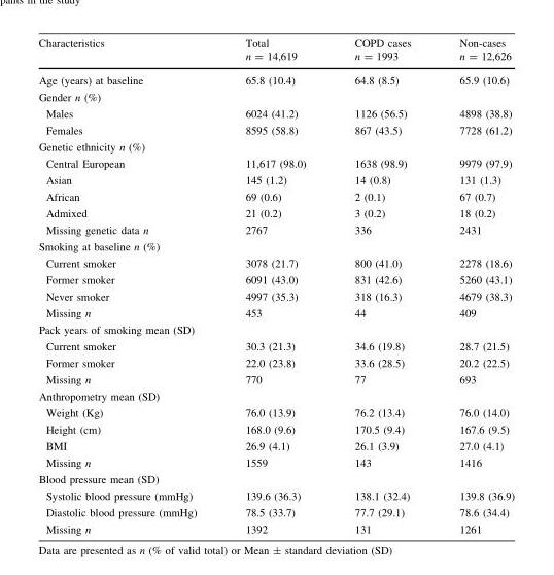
<table><thead><tr><td>Characteristics</td><td>Total n = 14,619</td><td>COPD cases n = 1993</td><td>Non-cases n = 12,626</td></tr></thead><tbody><tr><td>Age (years) at baseline</td><td>65.8 (10.4)</td><td>64.8 (8.5)</td><td>65.9 (10.6)</td></tr><tr><td colspan="4">Gender n (%)</td></tr><tr><td>Males</td><td>6024 (41.2)</td><td>1126 (56.5)</td><td>4898 (38.8)</td></tr><tr><td>Females</td><td>8595 (58.8)</td><td>867 (43.5)</td><td>7728 (61.2)</td></tr><tr><td colspan="4">Genetic ethnicity n (%)</td></tr><tr><td>Central European</td><td>11,617 (98.0)</td><td>1638 (98.9)</td><td>9979 (97.9)</td></tr><tr><td>Asian</td><td>145 (1.2)</td><td>14 (0.8)</td><td>131 (1.3)</td></tr><tr><td>African</td><td>69 (0.6)</td><td>2 (0.1)</td><td>67 (0.7)</td></tr><tr><td>Admixed</td><td>21 (0.2)</td><td>3 (0.2)</td><td>18 (0.2)</td></tr><tr><td>Missing genetic data n</td><td>2767</td><td>336</td><td>2431</td></tr><tr><td colspan="4">Smoking at baseline n (%)</td></tr><tr><td>Current smoker</td><td>3078 (21.7)</td><td>800 (41.0)</td><td>2278 (18.6)</td></tr><tr><td>Former smoker</td><td>6091 (43.0)</td><td>831 (42.6)</td><td>5260 (43.1)</td></tr><tr><td>Never smoker</td><td>4997 (35.3)</td><td>318 (16.3)</td><td>4679 (38.3)</td></tr><tr><td>Missing n</td><td>453</td><td>44</td><td>409</td></tr><tr><td colspan="4">Pack years of smoking mean (SD)</td></tr><tr><td>Current smoker</td><td>30.3 (21.3)</td><td>34.6 (19.8)</td><td>28.7 (21.5)</td></tr><tr><td>Former smoker</td><td>22.0 (23.8)</td><td>33.6 (28.5)</td><td>20.2 (22.5)</td></tr><tr><td>Missing n</td><td>770</td><td>77</td><td>693</td></tr><tr><td colspan="4">Anthropometry mean (SD)</td></tr><tr><td>Weight (Kg)</td><td>76.0 (13.9)</td><td>76.2 (13.4)</td><td>76.0 (14.0)</td></tr><tr><td>Height (cm)</td><td>168.0 (9.6)</td><td>170.5 (9.4)</td><td>167.6 (9.5)</td></tr><tr><td>BMI</td><td>26.9 (4.1)</td><td>26.1 (3.9)</td><td>27.0 (4.1)</td></tr><tr><td>Missing n</td><td>1559</td><td>143</td><td>1416</td></tr><tr><td colspan="4">Blood pressure mean (SD)</td></tr><tr><td>Systolic blood pressure (mmHg)</td><td>139.6 (36.3)</td><td>138.1 (32.4)</td><td>139.8 (36.9)</td></tr><tr><td>Diastolic blood pressure (mmHg)</td><td>78.5 (33.7)</td><td>77.7 (29.1)</td><td>78.6 (34.4)</td></tr><tr><td>Missing n</td><td>1392</td><td>131</td><td>1261</td></tr></tbody></table>